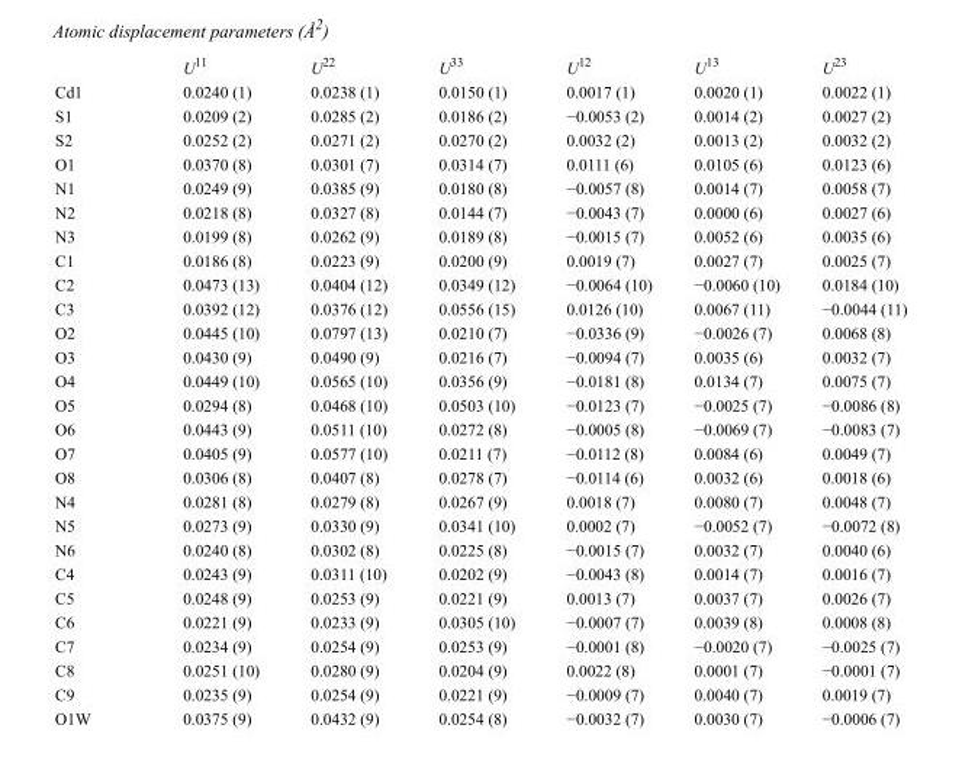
<table><thead><tr><td></td><td>U<sup>11</sup></td><td>U<sup>22</sup></td><td>U<sup>33</sup></td><td>U<sup>12</sup></td><td>U<sup>13</sup></td><td>U<sup>23</sup></td></tr></thead><tbody><tr><td>Cd1</td><td>0.0240 (1)</td><td>0.0238 (1)</td><td>0.0150 (1)</td><td>0.0017 (1)</td><td>0.0020 (1)</td><td>0.0022 (1)</td></tr><tr><td>S1</td><td>0.0209 (2)</td><td>0.0285 (2)</td><td>0.0186 (2)</td><td>−0.0053 (2)</td><td>0.0014 (2)</td><td>0.0027 (2)</td></tr><tr><td>S2</td><td>0.0252 (2)</td><td>0.0271 (2)</td><td>0.0270 (2)</td><td>0.0032 (2)</td><td>0.0013 (2)</td><td>0.0032 (2)</td></tr><tr><td>O1</td><td>0.0370 (8)</td><td>0.0301 (7)</td><td>0.0314 (7)</td><td>0.0111 (6)</td><td>0.0105 (6)</td><td>0.0123 (6)</td></tr><tr><td>N1</td><td>0.0249 (9)</td><td>0.0385 (9)</td><td>0.0180 (8)</td><td>−0.0057 (8)</td><td>0.0014 (7)</td><td>0.0058 (7)</td></tr><tr><td>N2</td><td>0.0218 (8)</td><td>0.0327 (8)</td><td>0.0144 (7)</td><td>−0.0043 (7)</td><td>0.0000 (6)</td><td>0.0027 (6)</td></tr><tr><td>N3</td><td>0.0199 (8)</td><td>0.0262 (9)</td><td>0.0189 (8)</td><td>−0.0015 (7)</td><td>0.0052 (6)</td><td>0.0035 (6)</td></tr><tr><td>C1</td><td>0.0186 (8)</td><td>0.0223 (9)</td><td>0.0200 (9)</td><td>0.0019 (7)</td><td>0.0027 (7)</td><td>0.0025 (7)</td></tr><tr><td>C2</td><td>0.0473 (13)</td><td>0.0404 (12)</td><td>0.0349 (12)</td><td>−0.0064 (10)</td><td>−0.0060 (10)</td><td>0.0184 (10)</td></tr><tr><td>C3</td><td>0.0392 (12)</td><td>0.0376 (12)</td><td>0.0556 (15)</td><td>0.0126 (10)</td><td>0.0067 (11)</td><td>−0.0044 (11)</td></tr><tr><td>O2</td><td>0.0445 (10)</td><td>0.0797 (13)</td><td>0.0210 (7)</td><td>−0.0336 (9)</td><td>−0.0026 (7)</td><td>0.0068 (8)</td></tr><tr><td>O3</td><td>0.0430 (9)</td><td>0.0490 (9)</td><td>0.0216 (7)</td><td>−0.0094 (7)</td><td>0.0035 (6)</td><td>0.0032 (7)</td></tr><tr><td>O4</td><td>0.0449 (10)</td><td>0.0565 (10)</td><td>0.0356 (9)</td><td>−0.0181 (8)</td><td>0.0134 (7)</td><td>0.0075 (7)</td></tr><tr><td>O5</td><td>0.0294 (8)</td><td>0.0468 (10)</td><td>0.0503 (10)</td><td>−0.0123 (7)</td><td>−0.0025 (7)</td><td>−0.0086 (8)</td></tr><tr><td>O6</td><td>0.0443 (9)</td><td>0.0511 (10)</td><td>0.0272 (8)</td><td>−0.0005 (8)</td><td>−0.0069 (7)</td><td>−0.0083 (7)</td></tr><tr><td>O7</td><td>0.0405 (9)</td><td>0.0577 (10)</td><td>0.0211 (7)</td><td>−0.0112 (8)</td><td>0.0084 (6)</td><td>0.0049 (7)</td></tr><tr><td>O8</td><td>0.0306 (8)</td><td>0.0407 (8)</td><td>0.0278 (7)</td><td>−0.0114 (6)</td><td>0.0032 (6)</td><td>0.0018 (6)</td></tr><tr><td>N4</td><td>0.0281 (8)</td><td>0.0279 (8)</td><td>0.0267 (9)</td><td>0.0018 (7)</td><td>0.0080 (7)</td><td>0.0048 (7)</td></tr><tr><td>N5</td><td>0.0273 (9)</td><td>0.0330 (9)</td><td>0.0341 (10)</td><td>0.0002 (7)</td><td>−0.0052 (7)</td><td>−0.0072 (8)</td></tr><tr><td>N6</td><td>0.0240 (8)</td><td>0.0302 (8)</td><td>0.0225 (8)</td><td>−0.0015 (7)</td><td>0.0032 (7)</td><td>0.0040 (6)</td></tr><tr><td>C4</td><td>0.0243 (9)</td><td>0.0311 (10)</td><td>0.0202 (9)</td><td>−0.0043 (8)</td><td>0.0014 (7)</td><td>0.0016 (7)</td></tr><tr><td>C5</td><td>0.0248 (9)</td><td>0.0253 (9)</td><td>0.0221 (9)</td><td>0.0013 (7)</td><td>0.0037 (7)</td><td>0.0026 (7)</td></tr><tr><td>C6</td><td>0.0221 (9)</td><td>0.0233 (9)</td><td>0.0305 (10)</td><td>−0.0007 (7)</td><td>0.0039 (8)</td><td>0.0008 (8)</td></tr><tr><td>C7</td><td>0.0234 (9)</td><td>0.0254 (9)</td><td>0.0253 (9)</td><td>−0.0001 (8)</td><td>−0.0020 (7)</td><td>−0.0025 (7)</td></tr><tr><td>C8</td><td>0.0251 (10)</td><td>0.0280 (9)</td><td>0.0204 (9)</td><td>0.0022 (8)</td><td>0.0001 (7)</td><td>−0.0001 (7)</td></tr><tr><td>C9</td><td>0.0235 (9)</td><td>0.0254 (9)</td><td>0.0221 (9)</td><td>−0.0009 (7)</td><td>0.0040 (7)</td><td>0.0019 (7)</td></tr><tr><td>O1W</td><td>0.0375 (9)</td><td>0.0432 (9)</td><td>0.0254 (8)</td><td>−0.0032 (7)</td><td>0.0030 (7)</td><td>−0.0006 (7)</td></tr></tbody></table>